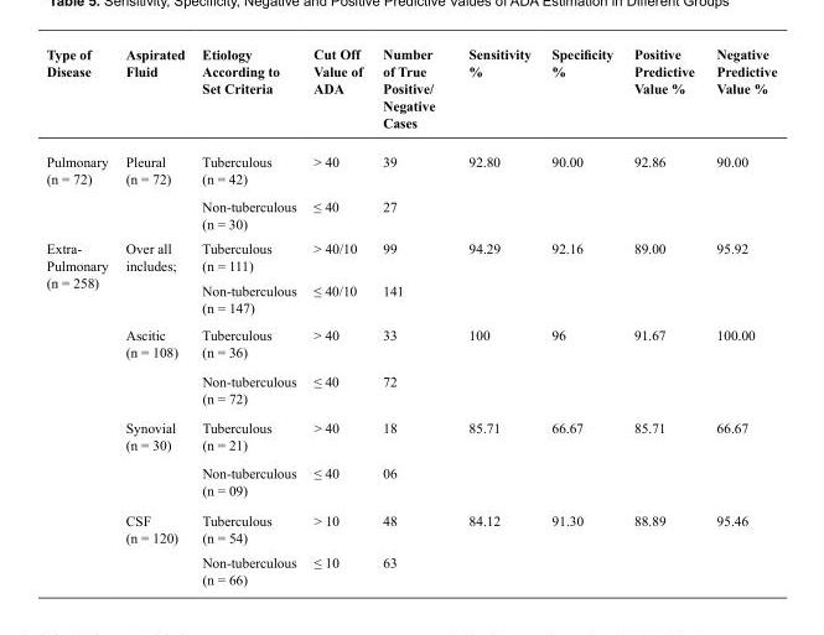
<table><thead><tr><td>Type of Disease</td><td>Aspirated Fluid</td><td>Etiology According to Set Criteria</td><td>Cut Off Value of ADA</td><td>Number of True Positive/ Negative Cases</td><td>Sensitivity %</td><td>Specificity %</td><td>Positive Predictive Value %</td><td>Negative Predictive Value %</td></tr></thead><tbody><tr><td rowspan="2">Pulmonary (n = 72)</td><td rowspan="2">Pleural (n = 72)</td><td>Tuberculous (n = 42)</td><td>&gt; 40</td><td>39</td><td rowspan="2">92.80</td><td rowspan="2">90.00</td><td rowspan="2">92.86</td><td rowspan="2">90.00</td></tr><tr><td>Non-tuberculous (n = 30)</td><td>≤ 40</td><td>27</td></tr><tr><td rowspan="8">Extra- Pulmonary (n = 258)</td><td rowspan="2">Over all includes;</td><td>Tuberculous (n = 111)</td><td>&gt; 40/10</td><td>99</td><td rowspan="2">94.29</td><td rowspan="2">92.16</td><td rowspan="2">89.00</td><td rowspan="2">95.92</td></tr><tr><td>Non-tuberculous (n = 147)</td><td>≤ 40/10</td><td>141</td></tr><tr><td rowspan="2">Ascitic (n = 108)</td><td>Tuberculous (n = 36)</td><td>&gt; 40</td><td>33</td><td rowspan="2">100</td><td rowspan="2">96</td><td rowspan="2">91.67</td><td rowspan="2">100.00</td></tr><tr><td>Non-tuberculous (n = 72)</td><td>≤ 40</td><td>72</td></tr><tr><td rowspan="2">Synovial (n = 30)</td><td>Tuberculous (n = 21)</td><td>&gt; 40</td><td>18</td><td rowspan="2">85.71</td><td rowspan="2">66.67</td><td rowspan="2">85.71</td><td rowspan="2">66.67</td></tr><tr><td>Non-tuberculous (n = 09)</td><td>≤ 40</td><td>06</td></tr><tr><td rowspan="2">CSF (n = 120)</td><td>Tuberculous (n = 54)</td><td>&gt; 10</td><td>48</td><td rowspan="2">84.12</td><td rowspan="2">91.30</td><td rowspan="2">88.89</td><td rowspan="2">95.46</td></tr><tr><td>Non-tuberculous (n = 66)</td><td>≤ 10</td><td>63</td></tr></tbody></table>